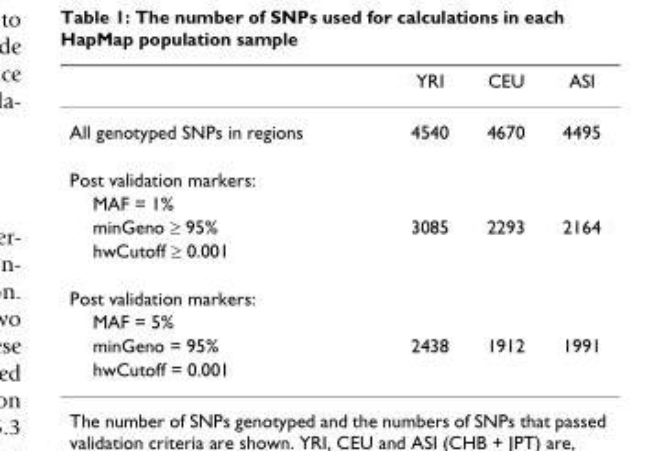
<table><thead><tr><td></td><td>YRI</td><td>CEU</td><td>ASI</td></tr></thead><tbody><tr><td>All genotyped SNPs in regions</td><td>4540</td><td>4670</td><td>4495</td></tr><tr><td colspan="4">Post validation markers:</td></tr><tr><td colspan="4">MAF = 1%</td></tr><tr><td>minGeno ≥ 95%</td><td>3085</td><td>2293</td><td>2164</td></tr><tr><td colspan="4">hwCutoff ≥ 0.001</td></tr><tr><td colspan="4">Post validation markers:</td></tr><tr><td colspan="4">MAF = 5%</td></tr><tr><td>minGeno = 95%</td><td>2438</td><td>1912</td><td>1991</td></tr><tr><td>hwCutoff = 0.001</td><td></td><td></td><td></td></tr></tbody></table>